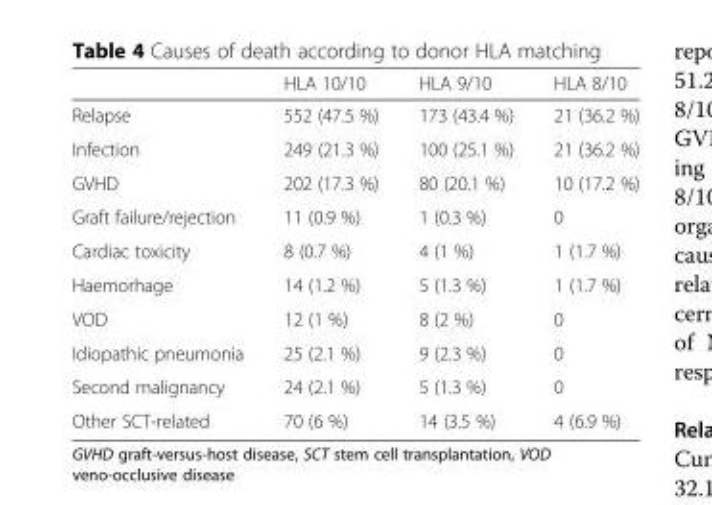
<table><thead><tr><td></td><td>HLA 10/10</td><td>HLA 9/10</td><td>HLA 8/10</td></tr></thead><tbody><tr><td>Relapse</td><td>552 (47.5 %)</td><td>173 (43.4 %)</td><td>21 (36.2 %)</td></tr><tr><td>Infection</td><td>249 (21.3 %)</td><td>100 (25.1 %)</td><td>21 (36.2 %)</td></tr><tr><td>GVHD</td><td>202 (17.3 %)</td><td>80 (20.1 %)</td><td>10 (17.2 %)</td></tr><tr><td>Graft failure/rejection</td><td>11 (0.9 %)</td><td>1 (0.3 %)</td><td>0</td></tr><tr><td>Cardiac toxicity</td><td>8 (0.7 %)</td><td>4 (1 %)</td><td>1 (1.7 %)</td></tr><tr><td>Haemorhage</td><td>14 (1.2 %)</td><td>5 (1.3 %)</td><td>1 (1.7 %)</td></tr><tr><td>VOD</td><td>12 (1 %)</td><td>8 (2 %)</td><td>0</td></tr><tr><td>Idiopathic pneumonia</td><td>25 (2.1 %)</td><td>9 (2.3 %)</td><td>0</td></tr><tr><td>Second malignancy</td><td>24 (2.1 %)</td><td>5 (1.3 %)</td><td>0</td></tr><tr><td>Other SCT-related</td><td>70 (6 %)</td><td>14 (3.5 %)</td><td>4 (6.9 %)</td></tr></tbody></table>